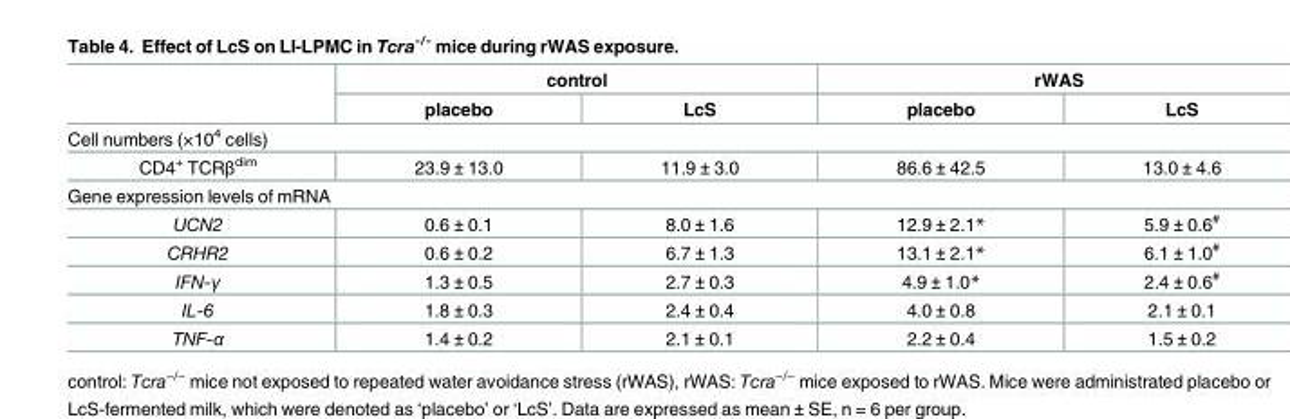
<table><thead><tr><td rowspan="2"></td><td colspan="2">control</td><td colspan="2">rWAS</td></tr><tr><td>placebo</td><td>LcS</td><td>placebo</td><td>LcS</td></tr></thead><tbody><tr><td colspan="5">Cell numbers (×10<sup>4</sup> cells)</td></tr><tr><td>CD4<sup>+</sup> TCRβ<sup>dim</sup></td><td>23.9 ± 13.0</td><td>11.9 ± 3.0</td><td>86.6 ± 42.5</td><td>13.0 ± 4.6</td></tr><tr><td colspan="5">Gene expression levels of mRNA</td></tr><tr><td>UCN2</td><td>0.6 ± 0.1</td><td>8.0 ± 1.6</td><td>12.9 ± 2.1*</td><td>5.9 ± 0.6<sup>#</sup></td></tr><tr><td>CRHR2</td><td>0.6 ± 0.2</td><td>6.7 ± 1.3</td><td>13.1 ± 2.1*</td><td>6.1 ± 1.0<sup>#</sup></td></tr><tr><td>IFN-γ</td><td>1.3 ± 0.5</td><td>2.7 ± 0.3</td><td>4.9 ± 1.0*</td><td>2.4 ± 0.6<sup>#</sup></td></tr><tr><td>IL-6</td><td>1.8 ± 0.3</td><td>2.4 ± 0.4</td><td>4.0 ± 0.8</td><td>2.1 ± 0.1</td></tr><tr><td>TNF-α</td><td>1.4 ± 0.2</td><td>2.1 ± 0.1</td><td>2.2 ± 0.4</td><td>1.5 ± 0.2</td></tr></tbody></table>